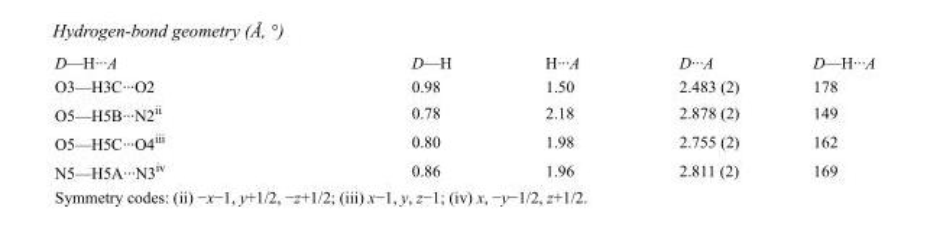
<table><tbody><tr><td>D—H···A</td><td>D—H</td><td>H···A</td><td>D···A</td><td>D—H···A</td></tr><tr><td>O3—H3C···O2</td><td>0.98</td><td>1.50</td><td>2.483 (2)</td><td>178</td></tr><tr><td>O5—H5B···N2<sup>ii</sup></td><td>0.78</td><td>2.18</td><td>2.878 (2)</td><td>149</td></tr><tr><td>O5—H5C···O4<sup>iii</sup></td><td>0.80</td><td>1.98</td><td>2.755 (2)</td><td>162</td></tr><tr><td>N5—H5A···N3<sup>iv</sup></td><td>0.86</td><td>1.96</td><td>2.811 (2)</td><td>169</td></tr></tbody></table>